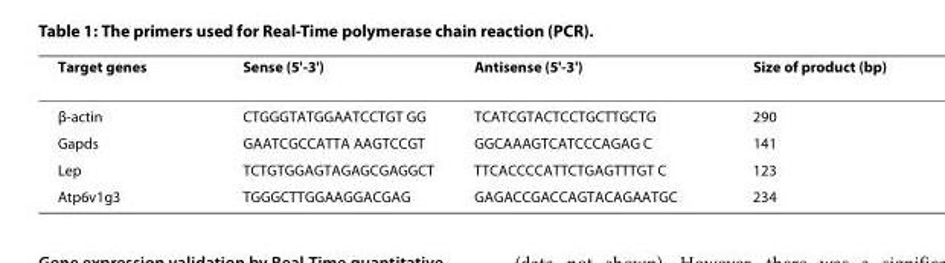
<table><thead><tr><td>Target genes</td><td>Sense (5&#x27;-3&#x27;)</td><td>Antisense (5&#x27;-3&#x27;)</td><td>Size of product (bp)</td></tr></thead><tbody><tr><td>β-actin</td><td>CTGGGTATGGAATCCTGT GG</td><td>TCATCGTACTCCTGCTTGCTG</td><td>290</td></tr><tr><td>Gapds</td><td>GAATCGCCATTA AAGTCCGT</td><td>GGCAAAGTCATCCCAGAG C</td><td>141</td></tr><tr><td>Lep</td><td>TCTGTGGAGTAGAGCGAGGCT</td><td>TTCACCCCATTCTGAGTTTGT C</td><td>123</td></tr><tr><td>Atp6v1g3</td><td>TGGGCTTGGAAGGACGAG</td><td>GAGACCGACCAGTACAGAATGC</td><td>234</td></tr></tbody></table>